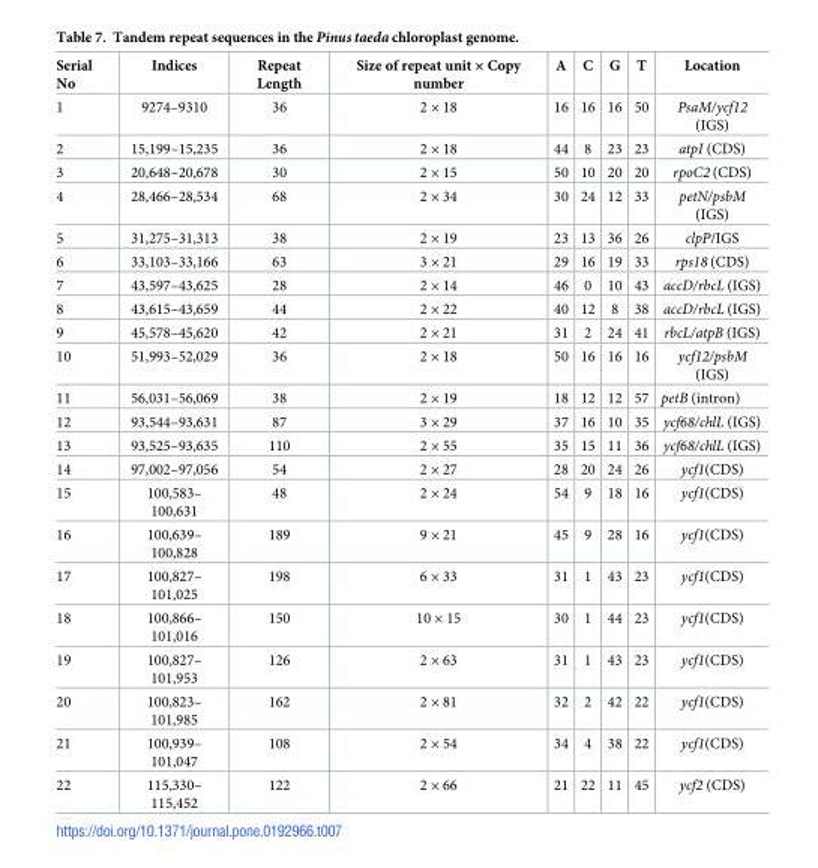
<table><thead><tr><td>Serial No</td><td>Indices</td><td>Repeat Length</td><td>Size of repeat unit × Copy number</td><td>A</td><td>C</td><td>G</td><td>T</td><td>Location</td></tr></thead><tbody><tr><td>1</td><td>9274–9310</td><td>36</td><td>2 × 18</td><td>16</td><td>16</td><td>16</td><td>50</td><td>PsaM/ycf12 (IGS)</td></tr><tr><td>2</td><td>15,199–15,235</td><td>36</td><td>2 × 18</td><td>44</td><td>8</td><td>23</td><td>23</td><td>atpI (CDS)</td></tr><tr><td>3</td><td>20,648–20,678</td><td>30</td><td>2 × 15</td><td>50</td><td>10</td><td>20</td><td>20</td><td>rpoC2 (CDS)</td></tr><tr><td>4</td><td>28,466–28,534</td><td>68</td><td>2 × 34</td><td>30</td><td>24</td><td>12</td><td>33</td><td>petN/psbM (IGS)</td></tr><tr><td>5</td><td>31,275–31,313</td><td>38</td><td>2 × 19</td><td>23</td><td>13</td><td>36</td><td>26</td><td>clpP/IGS</td></tr><tr><td>6</td><td>33,103–33,166</td><td>63</td><td>3 × 21</td><td>29</td><td>16</td><td>19</td><td>33</td><td>rps18 (CDS)</td></tr><tr><td>7</td><td>43,597–43,625</td><td>28</td><td>2 × 14</td><td>46</td><td>0</td><td>10</td><td>43</td><td>accD/rbcL (IGS)</td></tr><tr><td>8</td><td>43,615–43,659</td><td>44</td><td>2 × 22</td><td>40</td><td>12</td><td>8</td><td>38</td><td>accD/rbcL (IGS)</td></tr><tr><td>9</td><td>45,578–45,620</td><td>42</td><td>2 × 21</td><td>31</td><td>2</td><td>24</td><td>41</td><td>rbcL/atpB (IGS)</td></tr><tr><td>10</td><td>51,993–52,029</td><td>36</td><td>2 × 18</td><td>50</td><td>16</td><td>16</td><td>16</td><td>ycf12/psbM (IGS)</td></tr><tr><td>11</td><td>56,031–56,069</td><td>38</td><td>2 × 19</td><td>18</td><td>12</td><td>12</td><td>57</td><td>petB (intron)</td></tr><tr><td>12</td><td>93,544–93,631</td><td>87</td><td>3 × 29</td><td>37</td><td>16</td><td>10</td><td>35</td><td>ycf68/chlL (IGS)</td></tr><tr><td>13</td><td>93,525–93,635</td><td>110</td><td>2 × 55</td><td>35</td><td>15</td><td>11</td><td>36</td><td>ycf68/chlL (IGS)</td></tr><tr><td>14</td><td>97,002–97,056</td><td>54</td><td>2 × 27</td><td>28</td><td>20</td><td>24</td><td>26</td><td>ycf1(CDS)</td></tr><tr><td>15</td><td>100,583– 100,631</td><td>48</td><td>2 × 24</td><td>54</td><td>9</td><td>18</td><td>16</td><td>ycf1(CDS)</td></tr><tr><td>16</td><td>100,639– 100,828</td><td>189</td><td>9 × 21</td><td>45</td><td>9</td><td>28</td><td>16</td><td>ycf1(CDS)</td></tr><tr><td>17</td><td>100,827– 101,025</td><td>198</td><td>6 × 33</td><td>31</td><td>1</td><td>43</td><td>23</td><td>ycf1(CDS)</td></tr><tr><td>18</td><td>100,866– 101,016</td><td>150</td><td>10 × 15</td><td>30</td><td>1</td><td>44</td><td>23</td><td>ycf1(CDS)</td></tr><tr><td>19</td><td>100,827– 101,953</td><td>126</td><td>2 × 63</td><td>31</td><td>1</td><td>43</td><td>23</td><td>ycf1(CDS)</td></tr><tr><td>20</td><td>100,823– 101,985</td><td>162</td><td>2 × 81</td><td>32</td><td>2</td><td>42</td><td>22</td><td>ycf1(CDS)</td></tr><tr><td>21</td><td>100,939– 101,047</td><td>108</td><td>2 × 54</td><td>34</td><td>4</td><td>38</td><td>22</td><td>ycf1(CDS)</td></tr><tr><td>22</td><td>115,330– 115,452</td><td>122</td><td>2 × 66</td><td>21</td><td>22</td><td>11</td><td>45</td><td>ycf2 (CDS)</td></tr></tbody></table>